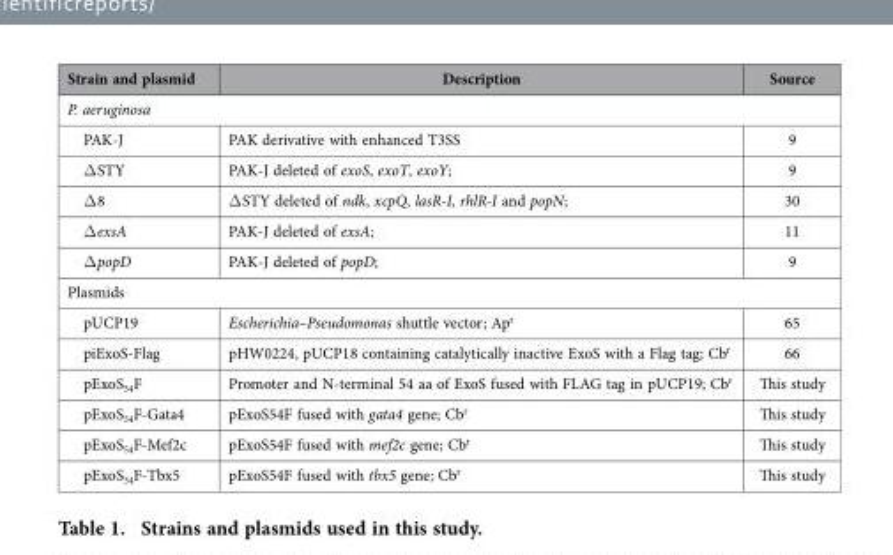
<table><thead><tr><td>Strain and plasmid</td><td>Description</td><td>Source</td></tr></thead><tbody><tr><td colspan="3">P. aeruginosa</td></tr><tr><td>PAK-J</td><td>PAK derivative with enhanced T3SS</td><td>9</td></tr><tr><td>Δ STY</td><td>PAK-J deleted of exoS, exoT, exoY;</td><td>9</td></tr><tr><td>Δ 8</td><td>Δ STY deleted of ndk, xcpQ, lasR-I, rhlR-I and popN;</td><td>30</td></tr><tr><td>Δ exsA</td><td>PAK-J deleted of exsA;</td><td>11</td></tr><tr><td>Δ popD</td><td>PAK-J deleted of popD;</td><td>9</td></tr><tr><td colspan="3">Plasmids</td></tr><tr><td>pUCP19</td><td>Escherichia–Pseudomonas shuttle vector; Ap<sup>r</sup></td><td>65</td></tr><tr><td>piExoS-Flag</td><td>pHW0224, pUCP18 containing catalytically inactive ExoS with a Flag tag; Cb<sup>r</sup></td><td>66</td></tr><tr><td>pExoS<sub>54</sub>F</td><td>Promoter and N-terminal 54 aa of ExoS fused with FLAG tag in pUCP19; Cb<sup>r</sup></td><td>This study</td></tr><tr><td>pExoS<sub>54</sub>F-Gata4</td><td>pExoS54F fused with gata4 gene; Cb<sup>r</sup></td><td>This study</td></tr><tr><td>pExoS<sub>54</sub>F-Mef2c</td><td>pExoS54F fused with mef2c gene; Cb<sup>r</sup></td><td>This study</td></tr><tr><td>pExoS<sub>54</sub>F-Tbx5</td><td>pExoS54F fused with tbx5 gene; Cb<sup>r</sup></td><td>This study</td></tr></tbody></table>